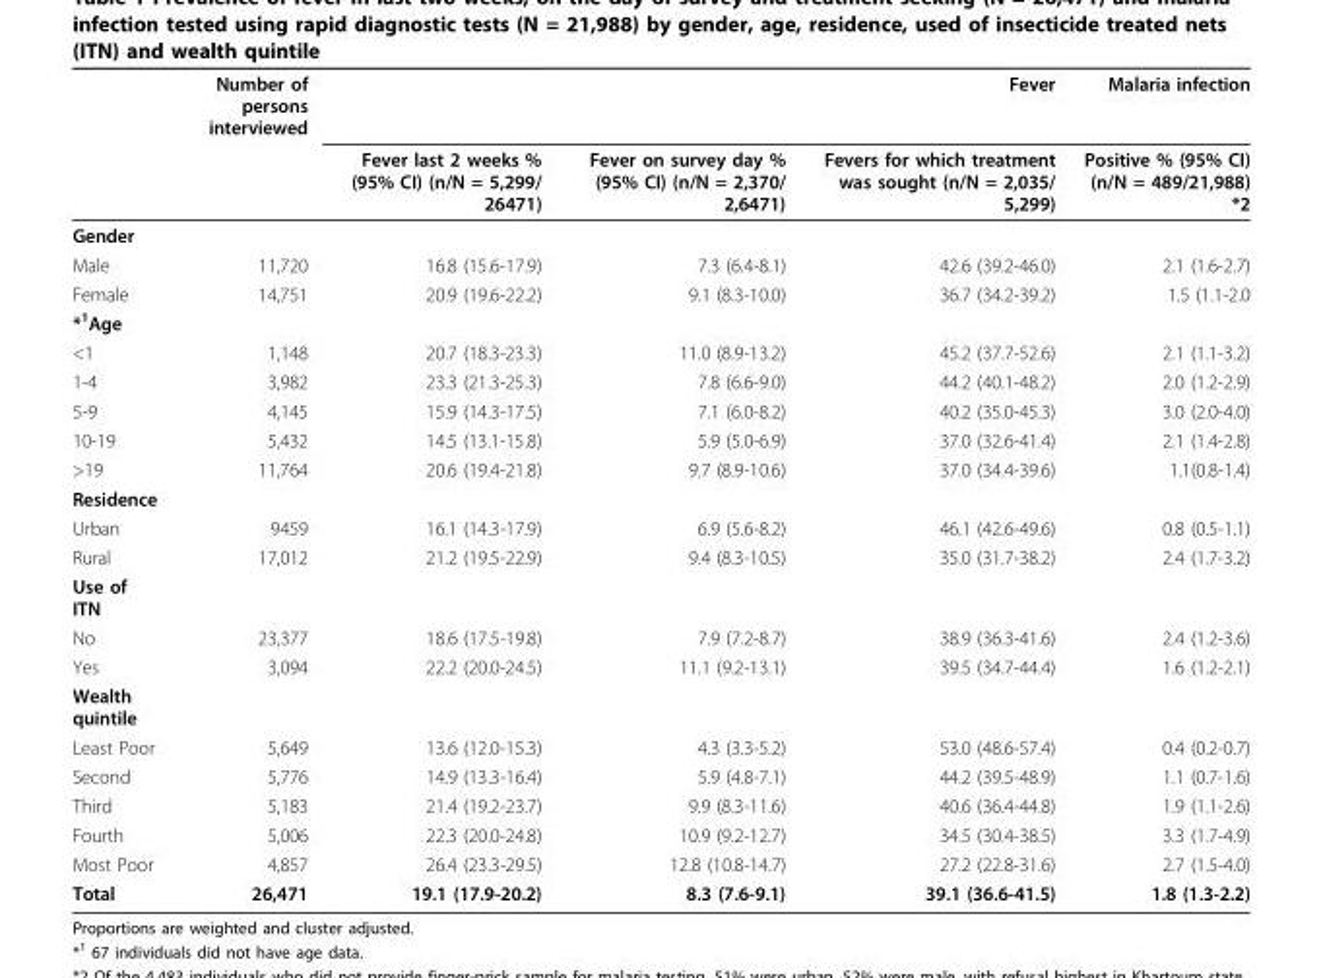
<table><thead><tr><td rowspan="2"></td><td rowspan="2">Number of persons interviewed</td><td colspan="3">Fever</td><td rowspan="2">Malaria infection Positive % (95% CI) (n/N = 489/21,988) *2</td></tr><tr><td>Fever last 2 weeks % (95% CI) (n/N = 5,299/ 26471)</td><td>Fever on survey day % (95% CI) (n/N = 2,370/ 2,6471)</td><td>Fevers for which treatment was sought (n/N = 2,035/ 5,299)</td></tr></thead><tbody><tr><td colspan="6">Gender</td></tr><tr><td>Male</td><td>11,720</td><td>16.8 (15.6-17.9)</td><td>7.3 (6.4-8.1)</td><td>42.6 (39.2-46.0)</td><td>2.1 (1.6-2.7)</td></tr><tr><td>Female</td><td>14,751</td><td>20.9 (19.6-22.2)</td><td>9.1 (8.3-10.0)</td><td>36.7 (34.2-39.2)</td><td>1.5 (1.1-2.0</td></tr><tr><td colspan="6">*<sup>1</sup>Age</td></tr><tr><td>&lt;1</td><td>1,148</td><td>20.7 (18.3-23.3)</td><td>11.0 (8.9-13.2)</td><td>45.2 (37.7-52.6)</td><td>2.1 (1.1-3.2)</td></tr><tr><td>1-4</td><td>3,982</td><td>23.3 (21.3-25.3)</td><td>7.8 (6.6-9.0)</td><td>44.2 (40.1-48.2)</td><td>2.0 (1.2-2.9)</td></tr><tr><td>5-9</td><td>4,145</td><td>15.9 (14.3-17.5)</td><td>7.1 (6.0-8.2)</td><td>40.2 (35.0-45.3)</td><td>3.0 (2.0-4.0)</td></tr><tr><td>10-19</td><td>5,432</td><td>14.5 (13.1-15.8)</td><td>5.9 (5.0-6.9)</td><td>37.0 (32.6-41.4)</td><td>2.1 (1.4-2.8)</td></tr><tr><td>&gt;19</td><td>11,764</td><td>20.6 (19.4-21.8)</td><td>9.7 (8.9-10.6)</td><td>37.0 (34.4-39.6)</td><td>1.1(0.8-1.4)</td></tr><tr><td colspan="6">Residence</td></tr><tr><td>Urban</td><td>9459</td><td>16.1 (14.3-17.9)</td><td>6.9 (5.6-8.2)</td><td>46.1 (42.6-49.6)</td><td>0.8 (0.5-1.1)</td></tr><tr><td>Rural</td><td>17,012</td><td>21.2 (19.5-22.9)</td><td>9.4 (8.3-10.5)</td><td>35.0 (31.7-38.2)</td><td>2.4 (1.7-3.2)</td></tr><tr><td colspan="6">Use of ITN</td></tr><tr><td>No</td><td>23,377</td><td>18.6 (17.5-19.8)</td><td>7.9 (7.2-8.7)</td><td>38.9 (36.3-41.6)</td><td>2.4 (1.2-3.6)</td></tr><tr><td>Yes</td><td>3,094</td><td>22.2 (20.0-24.5)</td><td>11.1 (9.2-13.1)</td><td>39.5 (34.7-44.4)</td><td>1.6 (1.2-2.1)</td></tr><tr><td colspan="6">Wealth quintile</td></tr><tr><td>Least Poor</td><td>5,649</td><td>13.6 (12.0-15.3)</td><td>4.3 (3.3-5.2)</td><td>53.0 (48.6-57.4)</td><td>0.4 (0.2-0.7)</td></tr><tr><td>Second</td><td>5,776</td><td>14.9 (13.3-16.4)</td><td>5.9 (4.8-7.1)</td><td>44.2 (39.5-48.9)</td><td>1.1 (0.7-1.6)</td></tr><tr><td>Third</td><td>5,183</td><td>21.4 (19.2-23.7)</td><td>9.9 (8.3-11.6)</td><td>40.6 (36.4-44.8)</td><td>1.9 (1.1-2.6)</td></tr><tr><td>Fourth</td><td>5,006</td><td>22.3 (20.0-24.8)</td><td>10.9 (9.2-12.7)</td><td>34.5 (30.4-38.5)</td><td>3.3 (1.7-4.9)</td></tr><tr><td>Most Poor</td><td>4,857</td><td>26.4 (23.3-29.5)</td><td>12.8 (10.8-14.7)</td><td>27.2 (22.8-31.6)</td><td>2.7 (1.5-4.0)</td></tr><tr><td>Total</td><td>26,471</td><td>19.1 (17.9-20.2)</td><td>8.3 (7.6-9.1)</td><td>39.1 (36.6-41.5)</td><td>1.8 (1.3-2.2)</td></tr></tbody></table>